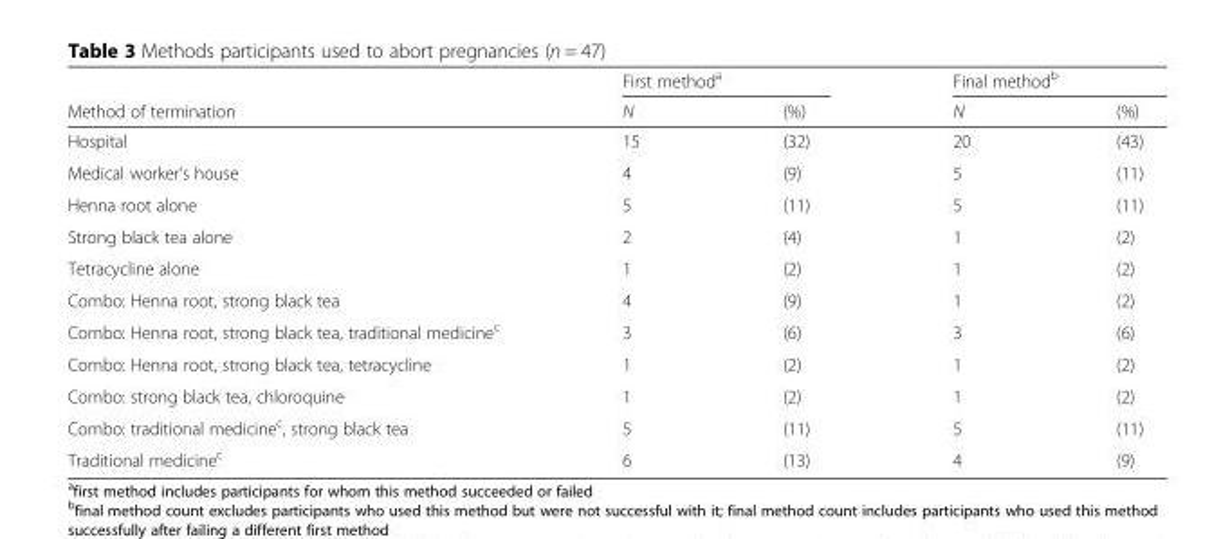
<table><thead><tr><td rowspan="2">Method of termination</td><td colspan="2">First method<sup>a</sup></td><td colspan="2">Final method<sup>b</sup></td></tr><tr><td>N</td><td>(%)</td><td>N</td><td>(%)</td></tr></thead><tbody><tr><td>Hospital</td><td>15</td><td>(32)</td><td>20</td><td>(43)</td></tr><tr><td>Medical worker’s house</td><td>4</td><td>(9)</td><td>5</td><td>(11)</td></tr><tr><td>Henna root alone</td><td>5</td><td>(11)</td><td>5</td><td>(11)</td></tr><tr><td>Strong black tea alone</td><td>2</td><td>(4)</td><td>1</td><td>(2)</td></tr><tr><td>Tetracycline alone</td><td>1</td><td>(2)</td><td>1</td><td>(2)</td></tr><tr><td>Combo: Henna root, strong black tea</td><td>4</td><td>(9)</td><td>1</td><td>(2)</td></tr><tr><td>Combo: Henna root, strong black tea, traditional medicine<sup>c</sup></td><td>3</td><td>(6)</td><td>3</td><td>(6)</td></tr><tr><td>Combo: Henna root, strong black tea, tetracycline</td><td>1</td><td>(2)</td><td>1</td><td>(2)</td></tr><tr><td>Combo: strong black tea, chloroquine</td><td>1</td><td>(2)</td><td>1</td><td>(2)</td></tr><tr><td>Combo: traditional medicine<sup>c</sup>, strong black tea</td><td>5</td><td>(11)</td><td>5</td><td>(11)</td></tr><tr><td>Traditional medicine<sup>c</sup></td><td>6</td><td>(13)</td><td>4</td><td>(9)</td></tr></tbody></table>